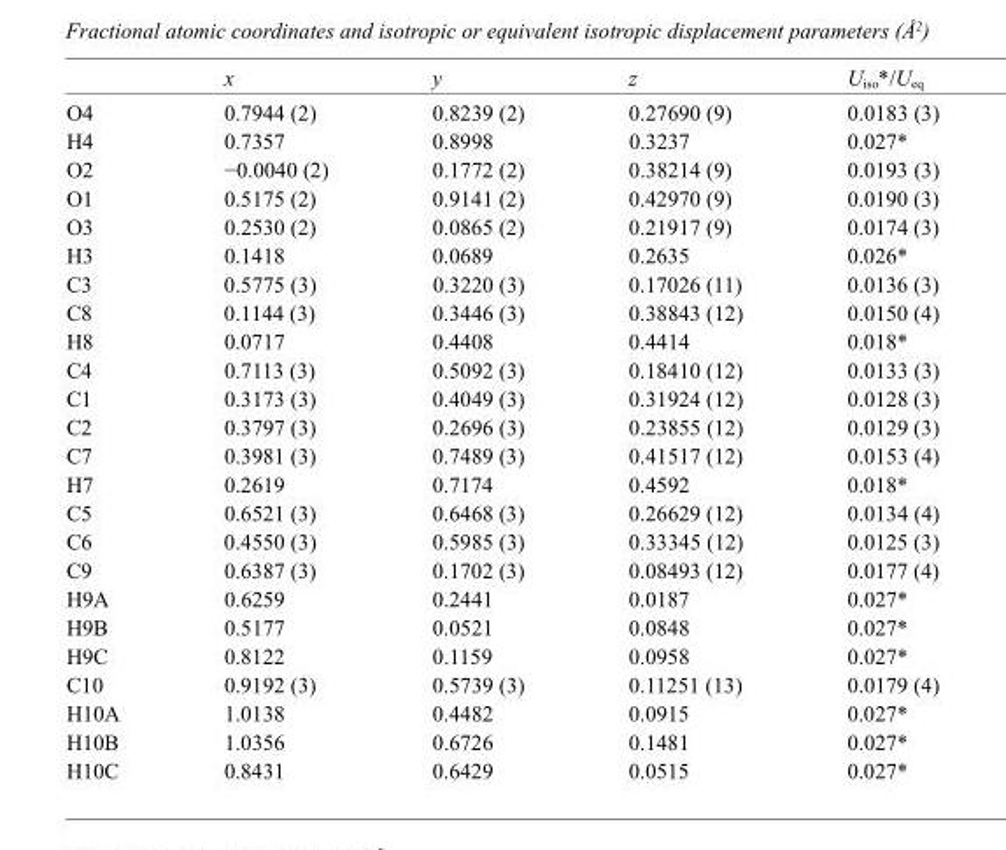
<table><thead><tr><td></td><td>x</td><td>y</td><td>z</td><td>U<sub>iso</sub>*/U<sub>eq</sub></td></tr></thead><tbody><tr><td>O4</td><td>0.7944 (2)</td><td>0.8239 (2)</td><td>0.27690 (9)</td><td>0.0183 (3)</td></tr><tr><td>H4</td><td>0.7357</td><td>0.8998</td><td>0.3237</td><td>0.027*</td></tr><tr><td>O2</td><td>−0.0040 (2)</td><td>0.1772 (2)</td><td>0.38214 (9)</td><td>0.0193 (3)</td></tr><tr><td>O1</td><td>0.5175 (2)</td><td>0.9141 (2)</td><td>0.42970 (9)</td><td>0.0190 (3)</td></tr><tr><td>O3</td><td>0.2530 (2)</td><td>0.0865 (2)</td><td>0.21917 (9)</td><td>0.0174 (3)</td></tr><tr><td>H3</td><td>0.1418</td><td>0.0689</td><td>0.2635</td><td>0.026*</td></tr><tr><td>C3</td><td>0.5775 (3)</td><td>0.3220 (3)</td><td>0.17026 (11)</td><td>0.0136 (3)</td></tr><tr><td>C8</td><td>0.1144 (3)</td><td>0.3446 (3)</td><td>0.38843 (12)</td><td>0.0150 (4)</td></tr><tr><td>H8</td><td>0.0717</td><td>0.4408</td><td>0.4414</td><td>0.018*</td></tr><tr><td>C4</td><td>0.7113 (3)</td><td>0.5092 (3)</td><td>0.18410 (12)</td><td>0.0133 (3)</td></tr><tr><td>C1</td><td>0.3173 (3)</td><td>0.4049 (3)</td><td>0.31924 (12)</td><td>0.0128 (3)</td></tr><tr><td>C2</td><td>0.3797 (3)</td><td>0.2696 (3)</td><td>0.23855 (12)</td><td>0.0129 (3)</td></tr><tr><td>C7</td><td>0.3981 (3)</td><td>0.7489 (3)</td><td>0.41517 (12)</td><td>0.0153 (4)</td></tr><tr><td>H7</td><td>0.2619</td><td>0.7174</td><td>0.4592</td><td>0.018*</td></tr><tr><td>C5</td><td>0.6521 (3)</td><td>0.6468 (3)</td><td>0.26629 (12)</td><td>0.0134 (4)</td></tr><tr><td>C6</td><td>0.4550 (3)</td><td>0.5985 (3)</td><td>0.33345 (12)</td><td>0.0125 (3)</td></tr><tr><td>C9</td><td>0.6387 (3)</td><td>0.1702 (3)</td><td>0.08493 (12)</td><td>0.0177 (4)</td></tr><tr><td>H9A</td><td>0.6259</td><td>0.2441</td><td>0.0187</td><td>0.027*</td></tr><tr><td>H9B</td><td>0.5177</td><td>0.0521</td><td>0.0848</td><td>0.027*</td></tr><tr><td>H9C</td><td>0.8122</td><td>0.1159</td><td>0.0958</td><td>0.027*</td></tr><tr><td>C10</td><td>0.9192 (3)</td><td>0.5739 (3)</td><td>0.11251 (13)</td><td>0.0179 (4)</td></tr><tr><td>H10A</td><td>1.0138</td><td>0.4482</td><td>0.0915</td><td>0.027*</td></tr><tr><td>H10B</td><td>1.0356</td><td>0.6726</td><td>0.1481</td><td>0.027*</td></tr><tr><td>H10C</td><td>0.8431</td><td>0.6429</td><td>0.0515</td><td>0.027*</td></tr></tbody></table>